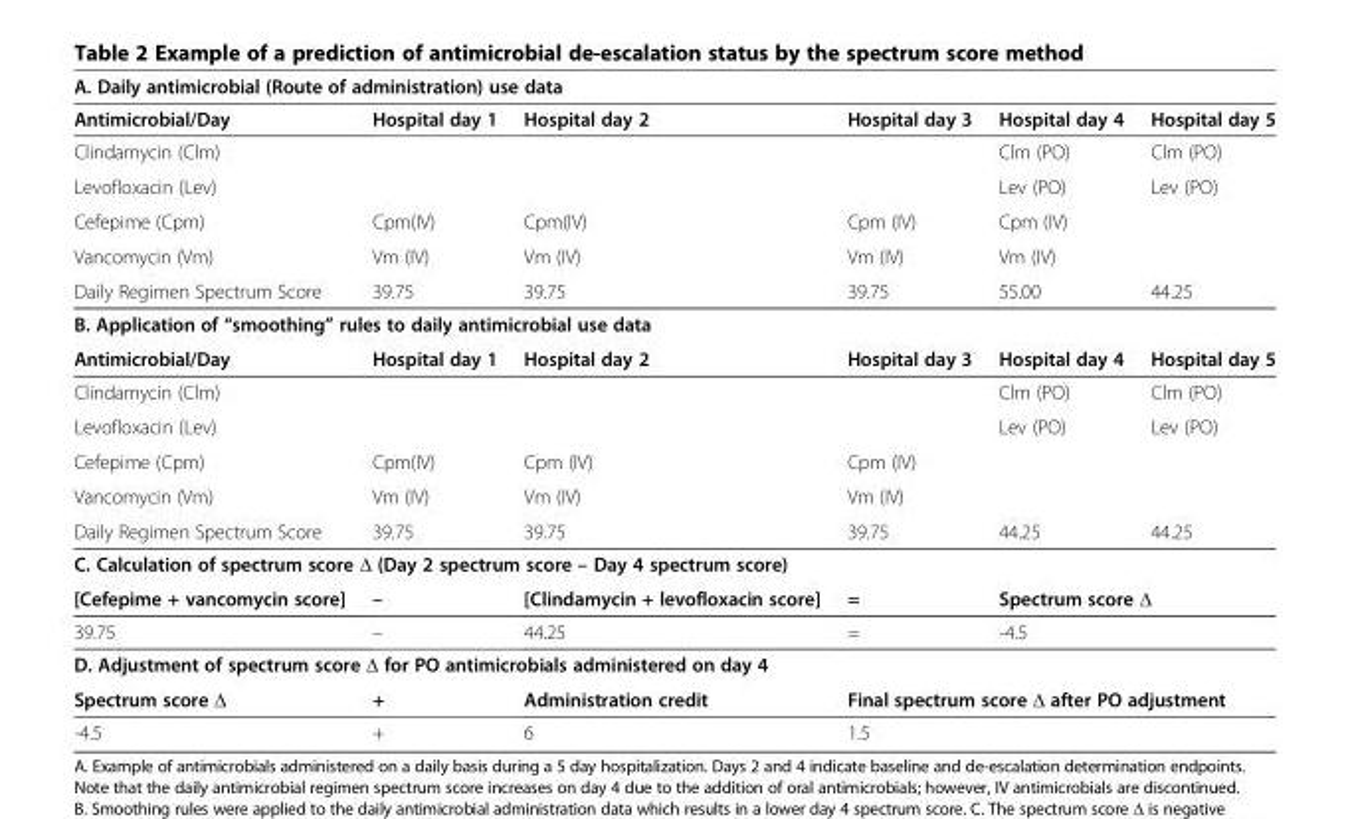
<table><thead><tr><td colspan="6">A. Daily antimicrobial (Route of administration) use data</td></tr><tr><td>Antimicrobial/Day</td><td>Hospital day 1</td><td>Hospital day 2</td><td>Hospital day 3</td><td>Hospital day 4</td><td>Hospital day 5</td></tr></thead><tbody><tr><td>Clindamycin (Clm)</td><td></td><td></td><td></td><td>Clm (PO)</td><td>Clm (PO)</td></tr><tr><td>Levofloxacin (Lev)</td><td></td><td></td><td></td><td>Lev (PO)</td><td>Lev (PO)</td></tr><tr><td>Cefepime (Cpm)</td><td>Cpm(IV)</td><td>Cpm(IV)</td><td>Cpm (IV)</td><td>Cpm (IV)</td><td></td></tr><tr><td>Vancomycin (Vm)</td><td>Vm (IV)</td><td>Vm (IV)</td><td>Vm (IV)</td><td>Vm (IV)</td><td></td></tr><tr><td>Daily Regimen Spectrum Score</td><td>39.75</td><td>39.75</td><td>39.75</td><td>55.00</td><td>44.25</td></tr><tr><td colspan="6">B. Application of “smoothing” rules to daily antimicrobial use data</td></tr><tr><td>Antimicrobial/Day</td><td>Hospital day 1</td><td>Hospital day 2</td><td>Hospital day 3</td><td>Hospital day 4</td><td>Hospital day 5</td></tr><tr><td>Clindamycin (Clm)</td><td></td><td></td><td></td><td>Clm (PO)</td><td>Clm (PO)</td></tr><tr><td>Levofloxacin (Lev)</td><td></td><td></td><td></td><td>Lev (PO)</td><td>Lev (PO)</td></tr><tr><td>Cefepime (Cpm)</td><td>Cpm(IV)</td><td>Cpm (IV)</td><td>Cpm (IV)</td><td></td><td></td></tr><tr><td>Vancomycin (Vm)</td><td>Vm (IV)</td><td>Vm (IV)</td><td>Vm (IV)</td><td></td><td></td></tr><tr><td>Daily Regimen Spectrum Score</td><td>39.75</td><td>39.75</td><td>39.75</td><td>44.25</td><td>44.25</td></tr><tr><td colspan="6">C. Calculation of spectrum score Δ (Day 2 spectrum score – Day 4 spectrum score)</td></tr><tr><td>[Cefepime + vancomycin score]</td><td>–</td><td>[Clindamycin + levofloxacin score]</td><td>=</td><td colspan="2">Spectrum score Δ</td></tr><tr><td>39.75</td><td>–</td><td>44.25</td><td>=</td><td colspan="2">-4.5</td></tr><tr><td colspan="6">D. Adjustment of spectrum score Δ for PO antimicrobials administered on day 4</td></tr><tr><td>Spectrum score Δ</td><td>+</td><td>Administration credit</td><td colspan="3">Final spectrum score Δ after PO adjustment</td></tr><tr><td>-4.5</td><td>+</td><td>6</td><td colspan="3">1.5</td></tr></tbody></table>